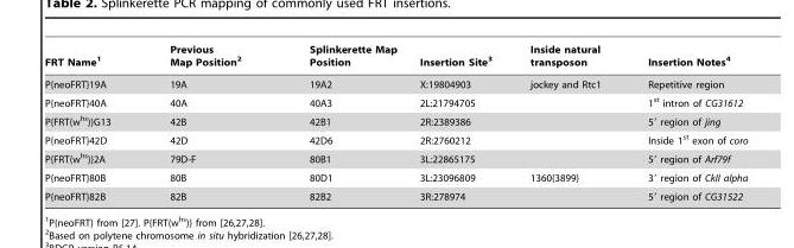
<table><thead><tr><td>FRT Name<sup>1</sup></td><td>Previous Map Position<sup>2</sup></td><td>Splinkerette Map Position</td><td>Insertion Site<sup>3</sup></td><td>Inside natural transposon</td><td>Insertion Notes<sup>4</sup></td></tr></thead><tbody><tr><td>P{neoFRT}19A</td><td>19A</td><td>19A2</td><td>X:19804903</td><td>jockey and Rtc1</td><td>Repetitive region</td></tr><tr><td>P{neoFRT}40A</td><td>40A</td><td>40A3</td><td>2L:21794705</td><td></td><td>1<sup>st</sup> intron of CG31612</td></tr><tr><td>P{FRT(w<sup>hs</sup>)}G13</td><td>42B</td><td>42B1</td><td>2R:2389386</td><td></td><td>5′ region of jing</td></tr><tr><td>P{neoFRT}42D</td><td>42D</td><td>42D6</td><td>2R:2760212</td><td></td><td>Inside 1<sup>st</sup> exon of coro</td></tr><tr><td>P{FRT(w<sup>hs</sup>)}2A</td><td>79D-F</td><td>80B1</td><td>3L:22865175</td><td></td><td>5′ region of Arf79f</td></tr><tr><td>P{neoFRT}80B</td><td>80B</td><td>80D1</td><td>3L:23096809</td><td>1360{3899}</td><td>3′ region of CkII alpha</td></tr><tr><td>P{neoFRT}82B</td><td>82B</td><td>82B2</td><td>3R:278974</td><td></td><td>5′ region of CG31522</td></tr></tbody></table>